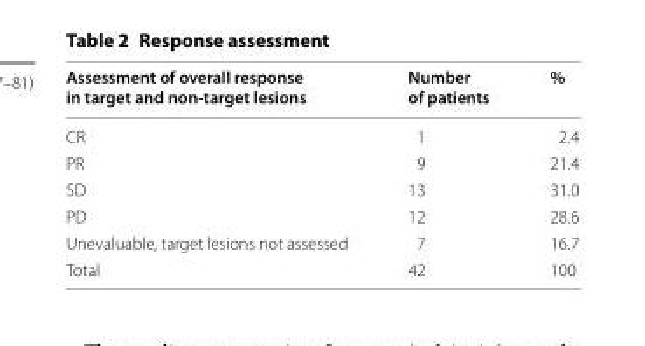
<table><thead><tr><td>Assessment of overall response in target and non-target lesions</td><td>Number of patients</td><td>%</td></tr></thead><tbody><tr><td>CR</td><td>1</td><td>2.4</td></tr><tr><td>PR</td><td>9</td><td>21.4</td></tr><tr><td>SD</td><td>13</td><td>31.0</td></tr><tr><td>PD</td><td>12</td><td>28.6</td></tr><tr><td>Unevaluable, target lesions not assessed</td><td>7</td><td>16.7</td></tr><tr><td>Total</td><td>42</td><td>100</td></tr></tbody></table>